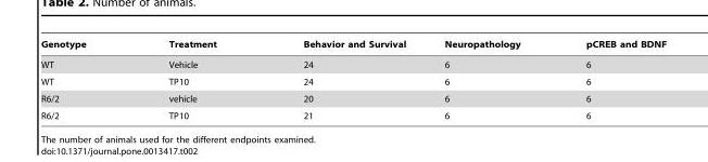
<table><thead><tr><td>Genotype</td><td>Treatment</td><td>Behavior and Survival</td><td>Neuropathology</td><td>pCREB and BDNF</td></tr></thead><tbody><tr><td>WT</td><td>Vehicle</td><td>24</td><td>6</td><td>6</td></tr><tr><td>WT</td><td>TP10</td><td>24</td><td>6</td><td>6</td></tr><tr><td>R6/2</td><td>vehicle</td><td>20</td><td>6</td><td>6</td></tr><tr><td>R6/2</td><td>TP10</td><td>21</td><td>6</td><td>6</td></tr></tbody></table>